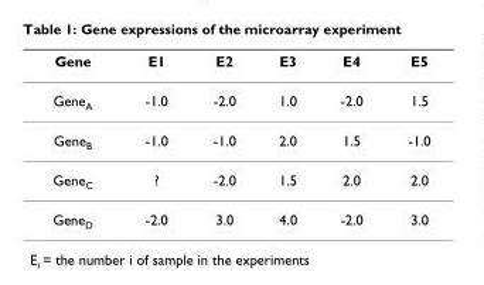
<table><thead><tr><td>Gene</td><td>E1</td><td>E2</td><td>E3</td><td>E4</td><td>E5</td></tr></thead><tbody><tr><td>Gene<sub>A</sub></td><td>-1.0</td><td>-2.0</td><td>1.0</td><td>-2.0</td><td>1.5</td></tr><tr><td>Gene<sub>B</sub></td><td>-1.0</td><td>-1.0</td><td>2.0</td><td>1.5</td><td>-1.0</td></tr><tr><td>Gene<sub>C</sub></td><td>?</td><td>-2.0</td><td>1.5</td><td>2.0</td><td>2.0</td></tr><tr><td>Gene<sub>D</sub></td><td>-2.0</td><td>3.0</td><td>4.0</td><td>-2.0</td><td>3.0</td></tr></tbody></table>